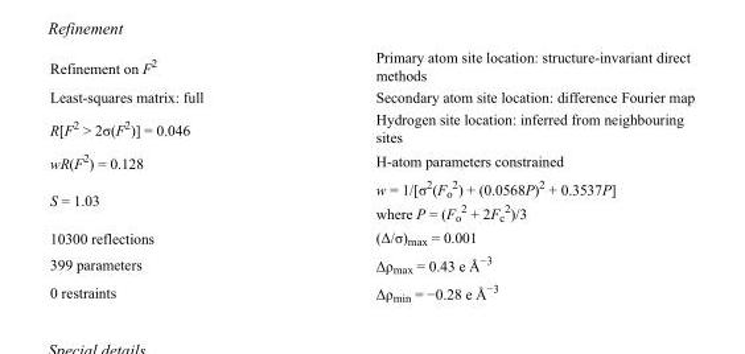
<table><tbody><tr><td>Refinement on F<sup>2</sup></td><td>Primary atom site location: structure-invariant direct methods</td></tr><tr><td>Least-squares matrix: full</td><td>Secondary atom site location: difference Fourier map</td></tr><tr><td>R[F<sup>2</sup> &gt; 2σ(F<sup>2</sup>)] = 0.046</td><td>Hydrogen site location: inferred from neighbouring sites</td></tr><tr><td>wR(F<sup>2</sup>) = 0.128</td><td>H-atom parameters constrained</td></tr><tr><td>S = 1.03</td><td>w = 1/[σ<sup>2</sup>(F<sub>o</sub> <sup>2</sup>) + (0.0568P)<sup>2</sup> + 0.3537P] where P = (F<sub>o</sub> <sup>2</sup> + 2F<sub>c</sub> <sup>2</sup>)/3</td></tr><tr><td>10300 reflections</td><td>(Δ/σ)<sub>max</sub> = 0.001</td></tr><tr><td>399 parameters</td><td>Δρ<sub>max</sub> = 0.43 e Å<sup>−3</sup></td></tr><tr><td>0 restraints</td><td>Δρ<sub>min</sub> = −0.28 e Å<sup>−3</sup></td></tr></tbody></table>